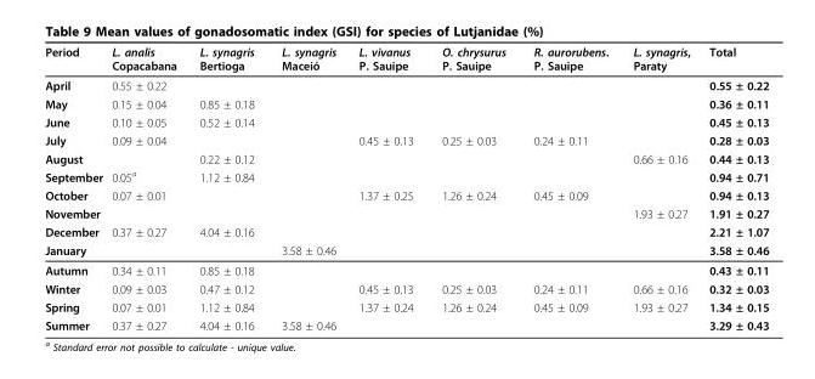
<table><thead><tr><td>Period</td><td>L. analis Copacabana</td><td>L. synagris Bertioga</td><td>L. synagris Maceió</td><td>L. vivanus P. Sauipe</td><td>O. chrysurus P. Sauipe</td><td>R. aurorubens. P. Sauipe</td><td>L. synagris, Paraty</td><td>Total</td></tr></thead><tbody><tr><td>April</td><td>0.55 ± 0.22</td><td></td><td></td><td></td><td></td><td></td><td></td><td>0.55 ± 0.22</td></tr><tr><td>May</td><td>0.15 ± 0.04</td><td>0.85 ± 0.18</td><td></td><td></td><td></td><td></td><td></td><td>0.36 ± 0.11</td></tr><tr><td>June</td><td>0.10 ± 0.05</td><td>0.52 ± 0.14</td><td></td><td></td><td></td><td></td><td></td><td>0.45 ± 0.13</td></tr><tr><td>July</td><td>0.09 ± 0.04</td><td></td><td></td><td>0.45 ± 0.13</td><td>0.25 ± 0.03</td><td>0.24 ± 0.11</td><td></td><td>0.28 ± 0.03</td></tr><tr><td>August</td><td></td><td>0.22 ± 0.12</td><td></td><td></td><td></td><td></td><td>0.66 ± 0.16</td><td>0.44 ± 0.13</td></tr><tr><td>September</td><td>0.05<sup>a</sup></td><td>1.12 ± 0.84</td><td></td><td></td><td></td><td></td><td></td><td>0.94 ± 0.71</td></tr><tr><td>October</td><td>0.07 ± 0.01</td><td></td><td></td><td>1.37 ± 0.25</td><td>1.26 ± 0.24</td><td>0.45 ± 0.09</td><td></td><td>0.94 ± 0.13</td></tr><tr><td>November</td><td></td><td></td><td></td><td></td><td></td><td></td><td>1.93 ± 0.27</td><td>1.91 ± 0.27</td></tr><tr><td>December</td><td>0.37 ± 0.27</td><td>4.04 ± 0.16</td><td></td><td></td><td></td><td></td><td></td><td>2.21 ± 1.07</td></tr><tr><td>January</td><td></td><td></td><td>3.58 ± 0.46</td><td></td><td></td><td></td><td></td><td>3.58 ± 0.46</td></tr><tr><td>Autumn</td><td>0.34 ± 0.11</td><td>0.85 ± 0.18</td><td></td><td></td><td></td><td></td><td></td><td>0.43 ± 0.11</td></tr><tr><td>Winter</td><td>0.09 ± 0.03</td><td>0.47 ± 0.12</td><td></td><td>0.45 ± 0.13</td><td>0.25 ± 0.03</td><td>0.24 ± 0.11</td><td>0.66 ± 0.16</td><td>0.32 ± 0.03</td></tr><tr><td>Spring</td><td>0.07 ± 0.01</td><td>1.12 ± 0.84</td><td></td><td>1.37 ± 0.24</td><td>1.26 ± 0.24</td><td>0.45 ± 0.09</td><td>1.93 ± 0.27</td><td>1.34 ± 0.15</td></tr><tr><td>Summer</td><td>0.37 ± 0.27</td><td>4.04 ± 0.16</td><td>3.58 ± 0.46</td><td></td><td></td><td></td><td></td><td>3.29 ± 0.43</td></tr></tbody></table>